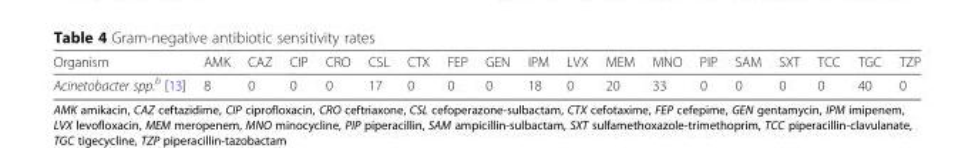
<table><thead><tr><td>Organism</td><td>AMK</td><td>CAZ</td><td>CIP</td><td>CRO</td><td>CSL</td><td>CTX</td><td>FEP</td><td>GEN</td><td>IPM</td><td>LVX</td><td>MEM</td><td>MNO</td><td>PIP</td><td>SAM</td><td>SXT</td><td>TCC</td><td>TGC</td><td>TZP</td></tr></thead><tbody><tr><td>Acinetobacter spp.<sup>b</sup> [13]</td><td>8</td><td>0</td><td>0</td><td>0</td><td>17</td><td>0</td><td>0</td><td>0</td><td>18</td><td>0</td><td>20</td><td>33</td><td>0</td><td>0</td><td>0</td><td>0</td><td>40</td><td>0</td></tr></tbody></table>